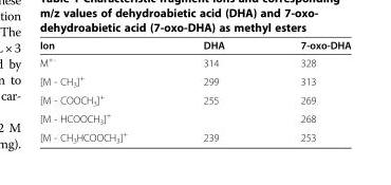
<table><thead><tr><td>Ion</td><td>DHA</td><td>7-oxo-DHA</td></tr></thead><tbody><tr><td>M<sup>+·</sup></td><td>314</td><td>328</td></tr><tr><td>[M - CH<sub>3</sub>]<sup>+</sup></td><td>299</td><td>313</td></tr><tr><td>[M - COOCH<sub>3</sub>]<sup>+</sup></td><td>255</td><td>269</td></tr><tr><td>[M - HCOOCH<sub>3</sub>]<sup>+</sup></td><td></td><td>268</td></tr><tr><td>[M - CH<sub>3</sub>HCOOCH<sub>3</sub>]<sup>+</sup></td><td>239</td><td>253</td></tr></tbody></table>